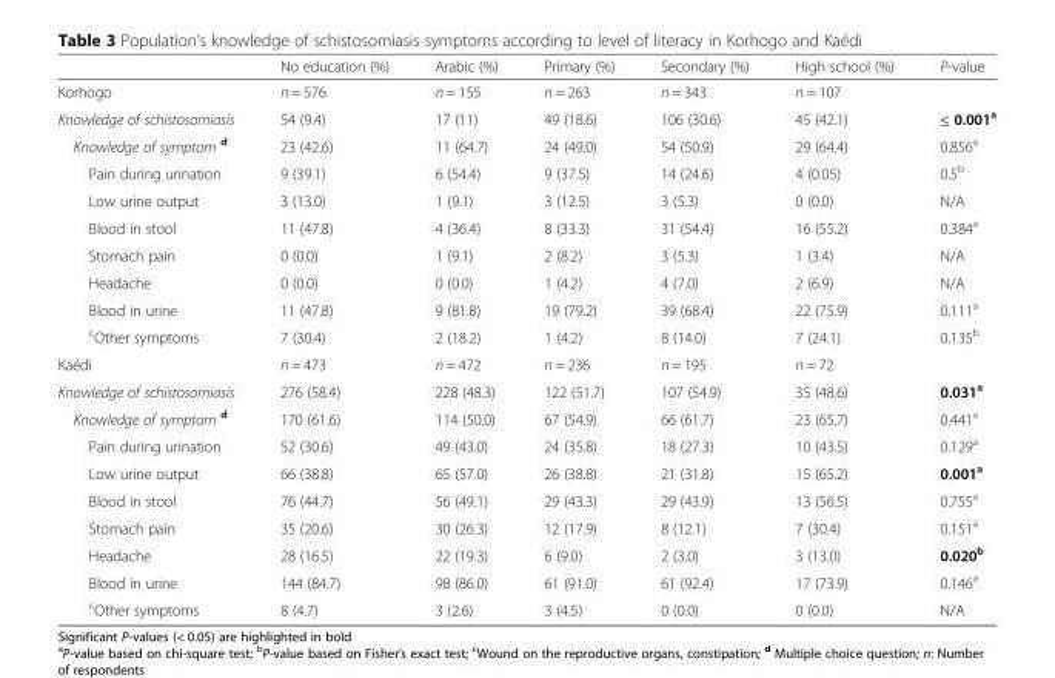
<table><thead><tr><td></td><td>No education (%)</td><td>Arabic (%)</td><td>Primary (%)</td><td>Secondary (%)</td><td>High school (%)</td><td>P-value</td></tr></thead><tbody><tr><td>Korhogo</td><td>n = 576</td><td>n = 155</td><td>n = 263</td><td>n = 343</td><td>n = 107</td><td></td></tr><tr><td>Knowledge of schistosomiasis</td><td>54 (9.4)</td><td>17 (11)</td><td>49 (18.6)</td><td>106 (30.6)</td><td>45 (42.1)</td><td>≤ 0.001<sup>a</sup></td></tr><tr><td>Knowledge of symptom <sup>d</sup></td><td>23 (42.6)</td><td>11 (64.7)</td><td>24 (49.0)</td><td>54 (50.9)</td><td>29 (64.4)</td><td>0.856<sup>a</sup></td></tr><tr><td>Pain during urination</td><td>9 (39.1)</td><td>6 (54.4)</td><td>9 (37.5)</td><td>14 (24.6)</td><td>4 (0.05)</td><td>0.5<sup>b</sup></td></tr><tr><td>Low urine output</td><td>3 (13.0)</td><td>1 (9.1)</td><td>3 (12.5)</td><td>3 (5.3)</td><td>0 (0.0)</td><td>N/A</td></tr><tr><td>Blood in stool</td><td>11 (47.8)</td><td>4 (36.4)</td><td>8 (33.3)</td><td>31 (54.4)</td><td>16 (55.2)</td><td>0.384<sup>a</sup></td></tr><tr><td>Stomach pain</td><td>0 (0.0)</td><td>1 (9.1)</td><td>2 (8.2)</td><td>3 (5.3)</td><td>1 (3.4)</td><td>N/A</td></tr><tr><td>Headache</td><td>0 (0.0)</td><td>0 (0.0)</td><td>1 (4.2)</td><td>4 (7.0)</td><td>2 (6.9)</td><td>N/A</td></tr><tr><td>Blood in urine</td><td>11 (47.8)</td><td>9 (81.8)</td><td>19 (79.2)</td><td>39 (68.4)</td><td>22 (75.9)</td><td>0.111<sup>a</sup></td></tr><tr><td><sup>c</sup>Other symptoms</td><td>7 (30.4)</td><td>2 (18.2)</td><td>1 (4.2)</td><td>8 (14.0)</td><td>7 (24.1)</td><td>0.135<sup>b</sup></td></tr><tr><td>Kaédi</td><td>n = 473</td><td>n = 472</td><td>n = 236</td><td>n = 195</td><td>n = 72</td><td></td></tr><tr><td>Knowledge of schistosomiasis</td><td>276 (58.4)</td><td>228 (48.3)</td><td>122 (51.7)</td><td>107 (54.9)</td><td>35 (48.6)</td><td>0.031<sup>a</sup></td></tr><tr><td>Knowledge of symptom <sup>d</sup></td><td>170 (61.6)</td><td>114 (50.0)</td><td>67 (54.9)</td><td>66 (61.7)</td><td>23 (65.7)</td><td>0.441<sup>a</sup></td></tr><tr><td>Pain during urination</td><td>52 (30.6)</td><td>49 (43.0)</td><td>24 (35.8)</td><td>18 (27.3)</td><td>10 (43.5)</td><td>0.129<sup>a</sup></td></tr><tr><td>Low urine output</td><td>66 (38.8)</td><td>65 (57.0)</td><td>26 (38.8)</td><td>21 (31.8)</td><td>15 (65.2)</td><td>0.001<sup>a</sup></td></tr><tr><td>Blood in stool</td><td>76 (44.7)</td><td>56 (49.1)</td><td>29 (43.3)</td><td>29 (43.9)</td><td>13 (56.5)</td><td>0.755<sup>a</sup></td></tr><tr><td>Stomach pain</td><td>35 (20.6)</td><td>30 (26.3)</td><td>12 (17.9)</td><td>8 (12.1)</td><td>7 (30.4)</td><td>0.151<sup>a</sup></td></tr><tr><td>Headache</td><td>28 (16.5)</td><td>22 (19.3)</td><td>6 (9.0)</td><td>2 (3.0)</td><td>3 (13.0)</td><td>0.020<sup>b</sup></td></tr><tr><td>Blood in urine</td><td>144 (84.7)</td><td>98 (86.0)</td><td>61 (91.0)</td><td>61 (92.4)</td><td>17 (73.9)</td><td>0.146<sup>a</sup></td></tr><tr><td><sup>c</sup>Other symptoms</td><td>8 (4.7)</td><td>3 (2.6)</td><td>3 (4.5)</td><td>0 (0.0)</td><td>0 (0.0)</td><td>N/A</td></tr></tbody></table>